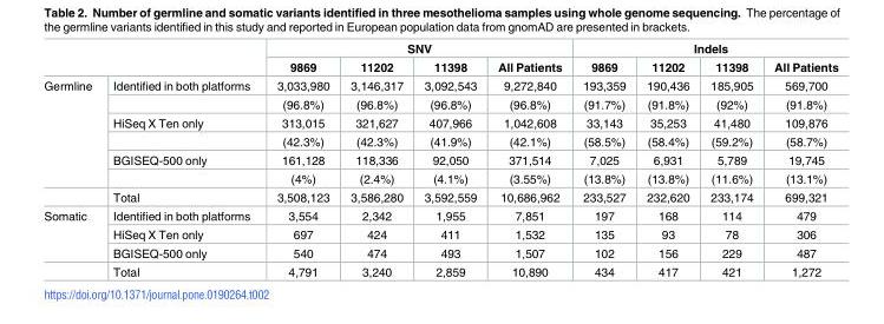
<table><thead><tr><td rowspan="2"></td><td rowspan="2"></td><td colspan="4">SNV</td><td colspan="4">Indels</td></tr><tr><td>9869</td><td>11202</td><td>11398</td><td>All Patients</td><td>9869</td><td>11202</td><td>11398</td><td>All Patients</td></tr></thead><tbody><tr><td rowspan="7">Germline</td><td>Identified in both platforms</td><td>3,033,980</td><td>3,146,317</td><td>3,092,543</td><td>9,272,840</td><td>193,359</td><td>190,436</td><td>185,905</td><td>569,700</td></tr><tr><td></td><td>(96.8%)</td><td>(96.8%)</td><td>(96.8%)</td><td>(96.8%)</td><td>(91.7%)</td><td>(91.8%)</td><td>(92%)</td><td>(91.8%)</td></tr><tr><td>HiSeq X Ten only</td><td>313,015</td><td>321,627</td><td>407,966</td><td>1,042,608</td><td>33,143</td><td>35,253</td><td>41,480</td><td>109,876</td></tr><tr><td></td><td>(42.3%)</td><td>(42.3%)</td><td>(41.9%)</td><td>(42.1%)</td><td>(58.5%)</td><td>(58.4%)</td><td>(59.2%)</td><td>(58.7%)</td></tr><tr><td>BGISEQ-500 only</td><td>161,128</td><td>118,336</td><td>92,050</td><td>371,514</td><td>7,025</td><td>6,931</td><td>5,789</td><td>19,745</td></tr><tr><td></td><td>(4%)</td><td>(2.4%)</td><td>(4.1%)</td><td>(3.55%)</td><td>(13.8%)</td><td>(13.8%)</td><td>(11.6%)</td><td>(13.1%)</td></tr><tr><td>Total</td><td>3,508,123</td><td>3,586,280</td><td>3,592,559</td><td>10,686,962</td><td>233,527</td><td>232,620</td><td>233,174</td><td>699,321</td></tr><tr><td rowspan="4">Somatic</td><td>Identified in both platforms</td><td>3,554</td><td>2,342</td><td>1,955</td><td>7,851</td><td>197</td><td>168</td><td>114</td><td>479</td></tr><tr><td>HiSeq X Ten only</td><td>697</td><td>424</td><td>411</td><td>1,532</td><td>135</td><td>93</td><td>78</td><td>306</td></tr><tr><td>BGISEQ-500 only</td><td>540</td><td>474</td><td>493</td><td>1,507</td><td>102</td><td>156</td><td>229</td><td>487</td></tr><tr><td>Total</td><td>4,791</td><td>3,240</td><td>2,859</td><td>10,890</td><td>434</td><td>417</td><td>421</td><td>1,272</td></tr></tbody></table>